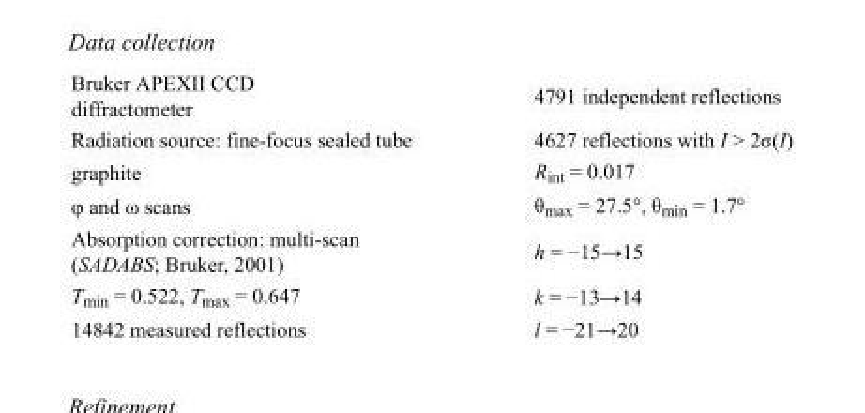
<table><tbody><tr><td>Bruker APEXII CCD diffractometer</td><td>4791 independent reflections</td></tr><tr><td>Radiation source: fine-focus sealed tube</td><td>4627 reflections with I &gt; 2σ(I)</td></tr><tr><td>graphite</td><td>R<sub>int</sub> = 0.017</td></tr><tr><td>φ and ω scans</td><td>θ<sub>max</sub> = 27.5°, θ<sub>min</sub> = 1.7°</td></tr><tr><td>Absorption correction: multi-scan (SADABS; Bruker, 2001)</td><td>h = −15→15</td></tr><tr><td>T<sub>min</sub> = 0.522, T<sub>max</sub> = 0.647</td><td>k = −13→14</td></tr><tr><td>14842 measured reflections</td><td>l = −21→20</td></tr></tbody></table>